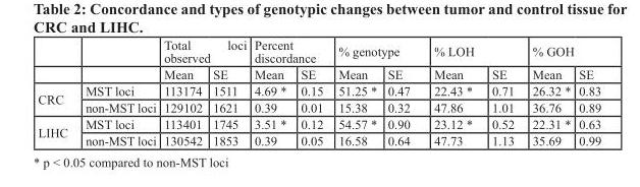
<table><thead><tr><td rowspan="2"></td><td rowspan="2"></td><td colspan="2">Total loci observed</td><td colspan="2">Percent discordance</td><td colspan="2">% genotype</td><td colspan="2">% LOH</td><td colspan="2">% GOH</td></tr><tr><td>Mean</td><td>SE</td><td>Mean</td><td>SE</td><td>Mean</td><td>SE</td><td>Mean</td><td>SE</td><td>Mean</td><td>SE</td></tr></thead><tbody><tr><td rowspan="2">CRC</td><td>MST loci</td><td>113174</td><td>1511</td><td>4.69 *</td><td>0.15</td><td>51.25 *</td><td>0.47</td><td>22.43 *</td><td>0.71</td><td>26.32 *</td><td>0.83</td></tr><tr><td>non-MST loci</td><td>129102</td><td>1621</td><td>0.39</td><td>0.01</td><td>15.38</td><td>0.32</td><td>47.86</td><td>1.01</td><td>36.76</td><td>0.89</td></tr><tr><td rowspan="2">LIHC</td><td>MST loci</td><td>113401</td><td>1745</td><td>3.51 *</td><td>0.12</td><td>54.57 *</td><td>0.90</td><td>23.12 *</td><td>0.52</td><td>22.31 *</td><td>0.63</td></tr><tr><td>non-MST loci</td><td>130542</td><td>1853</td><td>0.39</td><td>0.05</td><td>16.58</td><td>0.64</td><td>47.73</td><td>1.13</td><td>35.69</td><td>0.99</td></tr></tbody></table>